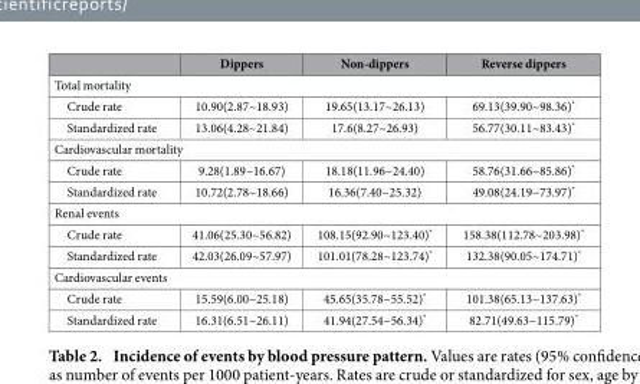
<table><thead><tr><td></td><td>Dippers</td><td>Non-dippers</td><td>Reverse dippers</td></tr></thead><tbody><tr><td colspan="4">Total mortality</td></tr><tr><td>Crude rate</td><td>10.90(2.87~18.93)</td><td>19.65(13.17~26.13)</td><td>69.13(39.90~98.36)*</td></tr><tr><td>Standardized rate</td><td>13.06(4.28~21.84)</td><td>17.6(8.27~26.93)</td><td>56.77(30.11~83.43)*</td></tr><tr><td colspan="4">Cardiovascular mortality</td></tr><tr><td>Crude rate</td><td>9.28(1.89~16.67)</td><td>18.18(11.96~24.40)</td><td>58.76(31.66~85.86)*</td></tr><tr><td>Standardized rate</td><td>10.72(2.78~18.66)</td><td>16.36(7.40~25.32)</td><td>49.08(24.19~73.97)*</td></tr><tr><td colspan="4">Renal events</td></tr><tr><td>Crude rate</td><td>41.06(25.30~56.82)</td><td>108.15(92.90~123.40)*</td><td>158.38(112.78~203.98)*</td></tr><tr><td>Standardized rate</td><td>42.03(26.09~57.97)</td><td>101.01(78.28~123.74)*</td><td>132.38(90.05~174.71)*</td></tr><tr><td colspan="4">Cardiovascular events</td></tr><tr><td>Crude rate</td><td>15.59(6.00~25.18)</td><td>45.65(35.78~55.52)*</td><td>101.38(65.13~137.63)*</td></tr><tr><td>Standardized rate</td><td>16.31(6.51~26.11)</td><td>41.94(27.54~56.34)*</td><td>82.71(49.63~115.79)*</td></tr></tbody></table>